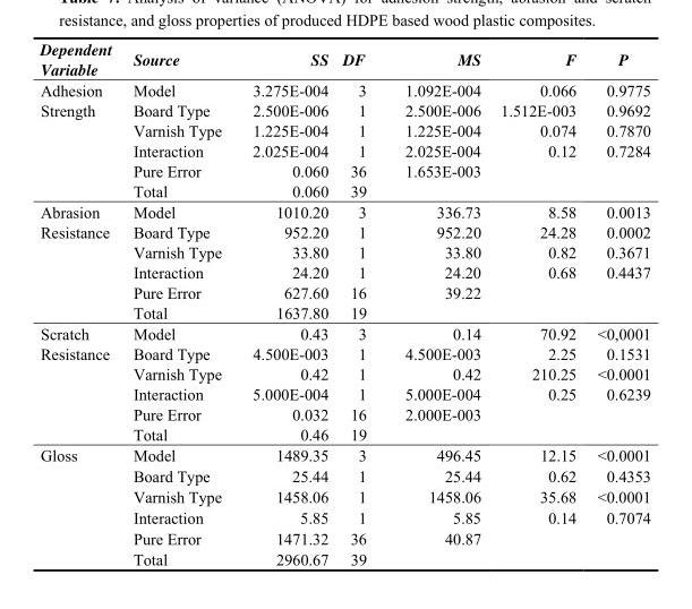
<table><thead><tr><td>Dependent Variable</td><td>Source</td><td>SS</td><td>DF</td><td>MS</td><td>F</td><td>P</td></tr></thead><tbody><tr><td>Adhesion</td><td>Model</td><td>3.275E-004</td><td>3</td><td>1.092E-004</td><td>0.066</td><td>0.9775</td></tr><tr><td rowspan="5">Strength</td><td>Board Type</td><td>2.500E-006</td><td>1</td><td>2.500E-006</td><td>1.512E-003</td><td>0.9692</td></tr><tr><td>Varnish Type</td><td>1.225E-004</td><td>1</td><td>1.225E-004</td><td>0.074</td><td>0.7870</td></tr><tr><td>Interaction</td><td>2.025E-004</td><td>1</td><td>2.025E-004</td><td>0.12</td><td>0.7284</td></tr><tr><td>Pure Error</td><td>0.060</td><td>36</td><td>1.653E-003</td><td></td><td></td></tr><tr><td>Total</td><td>0.060</td><td>39</td><td></td><td></td><td></td></tr><tr><td>Abrasion</td><td>Model</td><td>1010.20</td><td>3</td><td>336.73</td><td>8.58</td><td>0.0013</td></tr><tr><td rowspan="5">Resistance</td><td>Board Type</td><td>952.20</td><td>1</td><td>952.20</td><td>24.28</td><td>0.0002</td></tr><tr><td>Varnish Type</td><td>33.80</td><td>1</td><td>33.80</td><td>0.82</td><td>0.3671</td></tr><tr><td>Interaction</td><td>24.20</td><td>1</td><td>24.20</td><td>0.68</td><td>0.4437</td></tr><tr><td>Pure Error</td><td>627.60</td><td>16</td><td>39.22</td><td></td><td></td></tr><tr><td>Total</td><td>1637.80</td><td>19</td><td></td><td></td><td></td></tr><tr><td>Scratch</td><td>Model</td><td>0.43</td><td>3</td><td>0.14</td><td>70.92</td><td>&lt;0,0001</td></tr><tr><td rowspan="5">Resistance</td><td>Board Type</td><td>4.500E-003</td><td>1</td><td>4.500E-003</td><td>2.25</td><td>0.1531</td></tr><tr><td>Varnish Type</td><td>0.42</td><td>1</td><td>0.42</td><td>210.25</td><td>&lt;0.0001</td></tr><tr><td>Interaction</td><td>5.000E-004</td><td>1</td><td>5.000E-004</td><td>0.25</td><td>0.6239</td></tr><tr><td>Pure Error</td><td>0.032</td><td>16</td><td>2.000E-003</td><td></td><td></td></tr><tr><td>Total</td><td>0.46</td><td>19</td><td></td><td></td><td></td></tr><tr><td rowspan="6">Gloss</td><td>Model</td><td>1489.35</td><td>3</td><td>496.45</td><td>12.15</td><td>&lt;0.0001</td></tr><tr><td>Board Type</td><td>25.44</td><td>1</td><td>25.44</td><td>0.62</td><td>0.4353</td></tr><tr><td>Varnish Type</td><td>1458.06</td><td>1</td><td>1458.06</td><td>35.68</td><td>&lt;0.0001</td></tr><tr><td>Interaction</td><td>5.85</td><td>1</td><td>5.85</td><td>0.14</td><td>0.7074</td></tr><tr><td>Pure Error</td><td>1471.32</td><td>36</td><td>40.87</td><td></td><td></td></tr><tr><td>Total</td><td>2960.67</td><td>39</td><td></td><td></td><td></td></tr></tbody></table>